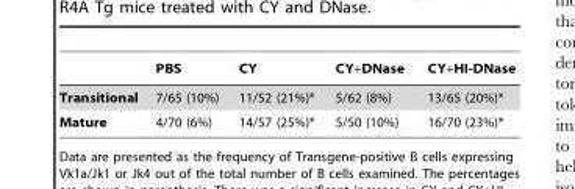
<table><thead><tr><td></td><td>PBS</td><td>CY</td><td>CY+DNase</td><td>CY+HI-DNase</td></tr></thead><tbody><tr><td>Transitional</td><td>7/65 (10%)</td><td>11/52 (21%)*</td><td>5/62 (8%)</td><td>13/65 (20%)*</td></tr><tr><td>Mature</td><td>4/70 (6%)</td><td>14/57 (25%)*</td><td>5/50 (10%)</td><td>16/70 (23%)*</td></tr></tbody></table>